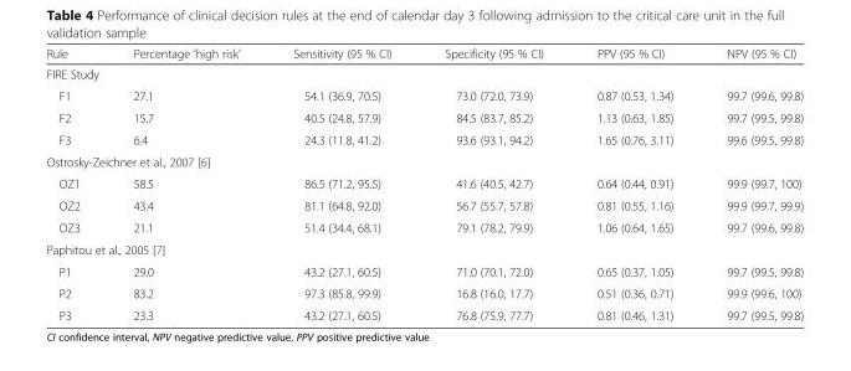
<table><thead><tr><td>Rule</td><td>Percentage ‘high risk’</td><td>Sensitivity (95 % CI)</td><td>Specificity (95 % CI)</td><td>PPV (95 % CI)</td><td>NPV (95 % CI)</td></tr></thead><tbody><tr><td colspan="6">FIRE Study</td></tr><tr><td>F1</td><td>27.1</td><td>54.1 (36.9, 70.5)</td><td>73.0 (72.0, 73.9)</td><td>0.87 (0.53, 1.34)</td><td>99.7 (99.6, 99.8)</td></tr><tr><td>F2</td><td>15.7</td><td>40.5 (24.8, 57.9)</td><td>84.5 (83.7, 85.2)</td><td>1.13 (0.63, 1.85)</td><td>99.7 (99.5, 99.8)</td></tr><tr><td>F3</td><td>6.4</td><td>24.3 (11.8, 41.2)</td><td>93.6 (93.1, 94.2)</td><td>1.65 (0.76, 3.11)</td><td>99.6 (99.5, 99.8)</td></tr><tr><td colspan="6">Ostrosky-Zeichner et al., 2007 [6]</td></tr><tr><td>OZ1</td><td>58.5</td><td>86.5 (71.2, 95.5)</td><td>41.6 (40.5, 42.7)</td><td>0.64 (0.44, 0.91)</td><td>99.9 (99.7, 100)</td></tr><tr><td>OZ2</td><td>43.4</td><td>81.1 (64.8, 92.0)</td><td>56.7 (55.7, 57.8)</td><td>0.81 (0.55, 1.16)</td><td>99.9 (99.7, 99.9)</td></tr><tr><td>OZ3</td><td>21.1</td><td>51.4 (34.4, 68.1)</td><td>79.1 (78.2, 79.9)</td><td>1.06 (0.64, 1.65)</td><td>99.7 (99.6, 99.8)</td></tr><tr><td colspan="6">Paphitou et al., 2005 [7]</td></tr><tr><td>P1</td><td>29.0</td><td>43.2 (27.1, 60.5)</td><td>71.0 (70.1, 72.0)</td><td>0.65 (0.37, 1.05)</td><td>99.7 (99.5, 99.8)</td></tr><tr><td>P2</td><td>83.2</td><td>97.3 (85.8, 99.9)</td><td>16.8 (16.0, 17.7)</td><td>0.51 (0.36, 0.71)</td><td>99.9 (99.6, 100)</td></tr><tr><td>P3</td><td>23.3</td><td>43.2 (27.1, 60.5)</td><td>76.8 (75.9, 77.7)</td><td>0.81 (0.46, 1.31)</td><td>99.7 (99.5, 99.8)</td></tr></tbody></table>